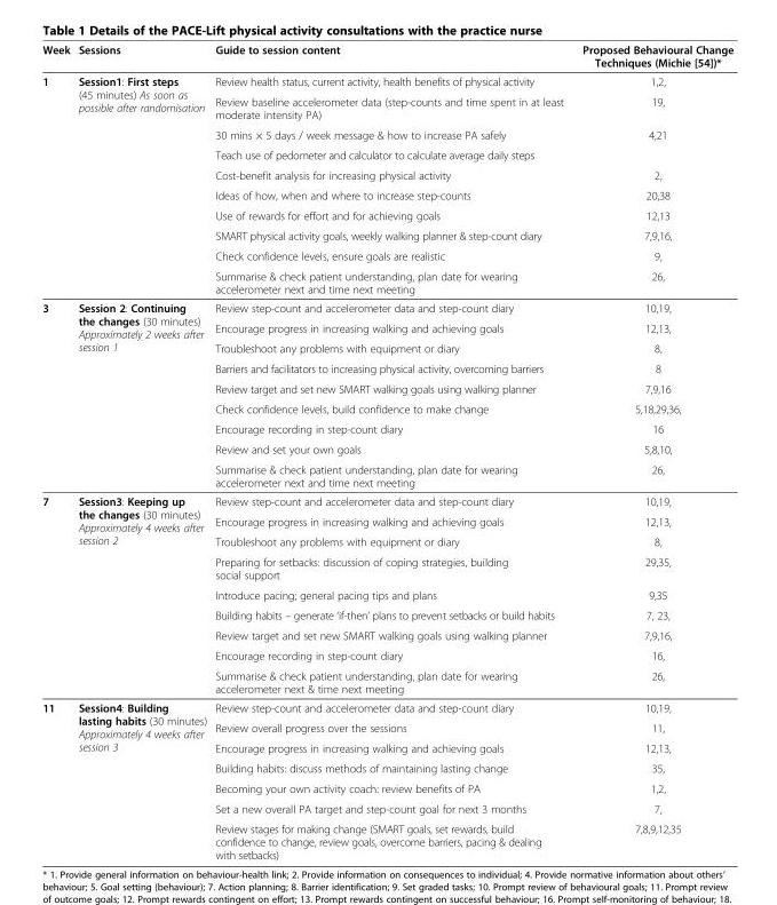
<table><thead><tr><td>Week</td><td>Sessions</td><td>Guide to session content</td><td>Proposed Behavioural Change Techniques (Michie [54])*</td></tr></thead><tbody><tr><td rowspan="10">1</td><td rowspan="9">Session1: First steps (45 minutes) As soon as possible after randomisation</td><td>Review health status, current activity, health benefits of physical activity</td><td>1,2,</td></tr><tr><td>Review baseline accelerometer data (step-counts and time spent in at least moderate intensity PA)</td><td>19,</td></tr><tr><td>30 mins × 5 days / week message &amp; how to increase PA safely</td><td>4,21</td></tr><tr><td>Teach use of pedometer and calculator to calculate average daily steps</td><td></td></tr><tr><td>Cost-benefit analysis for increasing physical activity</td><td>2,</td></tr><tr><td>Ideas of how, when and where to increase step-counts</td><td>20,38</td></tr><tr><td>Use of rewards for effort and for achieving goals</td><td>12,13</td></tr><tr><td>SMART physical activity goals, weekly walking planner &amp; step-count diary</td><td>7,9,16,</td></tr><tr><td>Check confidence levels, ensure goals are realistic</td><td>9,</td></tr><tr><td></td><td>Summarise &amp; check patient understanding, plan date for wearing accelerometer next and time next meeting</td><td>26,</td></tr><tr><td rowspan="9">3</td><td rowspan="8">Session 2: Continuing the changes (30 minutes) Approximately 2 weeks after session 1</td><td>Review step-count and accelerometer data and step-count diary</td><td>10,19,</td></tr><tr><td>Encourage progress in increasing walking and achieving goals</td><td>12,13,</td></tr><tr><td>Troubleshoot any problems with equipment or diary</td><td>8,</td></tr><tr><td>Barriers and facilitators to increasing physical activity, overcoming barriers</td><td>8</td></tr><tr><td>Review target and set new SMART walking goals using walking planner</td><td>7,9,16</td></tr><tr><td>Check confidence levels, build confidence to make change</td><td>5,18,29,36,</td></tr><tr><td>Encourage recording in step-count diary</td><td>16</td></tr><tr><td>Review and set your own goals</td><td>5,8,10,</td></tr><tr><td></td><td>Summarise &amp; check patient understanding, plan date for wearing accelerometer next and time next meeting</td><td>26,</td></tr><tr><td rowspan="9">7</td><td rowspan="8">Session3: Keeping up the changes (30 minutes) Approximately 4 weeks after session 2</td><td>Review step-count and accelerometer data and step-count diary</td><td>10,19,</td></tr><tr><td>Encourage progress in increasing walking and achieving goals</td><td>12,13,</td></tr><tr><td>Troubleshoot any problems with equipment or diary</td><td>8,</td></tr><tr><td>Preparing for setbacks: discussion of coping strategies, building social support</td><td>29,35,</td></tr><tr><td>Introduce pacing; general pacing tips and plans</td><td>9,35</td></tr><tr><td>Building habits – generate ‘if-then’ plans to prevent setbacks or build habits</td><td>7, 23,</td></tr><tr><td>Review target and set new SMART walking goals using walking planner</td><td>7,9,16,</td></tr><tr><td>Encourage recording in step-count diary</td><td>16,</td></tr><tr><td></td><td>Summarise &amp; check patient understanding, plan date for wearing accelerometer next &amp; time next meeting</td><td>26,</td></tr><tr><td rowspan="7">11</td><td rowspan="6">Session4: Building lasting habits (30 minutes) Approximately 4 weeks after session 3</td><td>Review step-count and accelerometer data and step-count diary</td><td>10,19,</td></tr><tr><td>Review overall progress over the sessions</td><td>11,</td></tr><tr><td>Encourage progress in increasing walking and achieving goals</td><td>12,13,</td></tr><tr><td>Building habits: discuss methods of maintaining lasting change</td><td>35,</td></tr><tr><td>Becoming your own activity coach: review benefits of PA</td><td>1,2,</td></tr><tr><td>Set a new overall PA target and step-count goal for next 3 months</td><td>7,</td></tr><tr><td></td><td>Review stages for making change (SMART goals, set rewards, build confidence to change, review goals, overcome barriers, pacing &amp; dealing with setbacks)</td><td>7,8,9,12,35</td></tr></tbody></table>